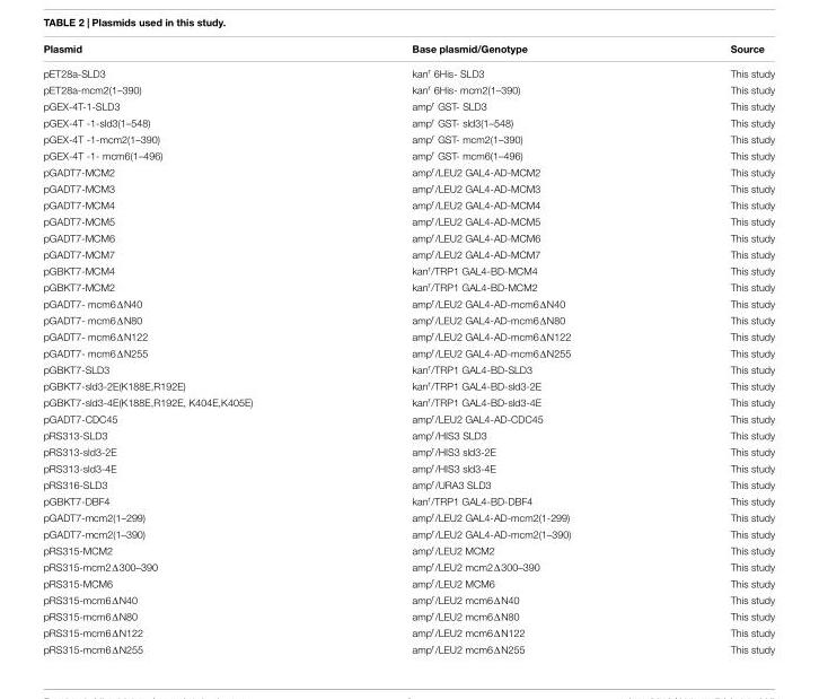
<table><thead><tr><td>Plasmid</td><td>Base plasmid/Genotype</td><td>Source</td></tr></thead><tbody><tr><td>pET28a-SLD3</td><td>kan<sup>r</sup> 6His- SLD3</td><td>This study</td></tr><tr><td>pET28a-mcm2(1–390)</td><td>kan<sup>r</sup> 6His- mcm2(1–390)</td><td>This study</td></tr><tr><td>pGEX-4T-1-SLD3</td><td>amp<sup>r</sup> GST- SLD3</td><td>This study</td></tr><tr><td>pGEX-4T -1-sld3(1–548)</td><td>amp<sup>r</sup> GST- sld3(1–548)</td><td>This study</td></tr><tr><td>pGEX-4T -1-mcm2(1–390)</td><td>amp<sup>r</sup> GST- mcm2(1–390)</td><td>This study</td></tr><tr><td>pGEX-4T -1- mcm6(1–496)</td><td>amp<sup>r</sup> GST- mcm6(1–496)</td><td>This study</td></tr><tr><td>pGADT7-MCM2</td><td>amp<sup>r</sup>/LEU2 GAL4-AD-MCM2</td><td>This study</td></tr><tr><td>pGADT7-MCM3</td><td>amp<sup>r</sup>/LEU2 GAL4-AD-MCM3</td><td>This study</td></tr><tr><td>pGADT7-MCM4</td><td>amp<sup>r</sup>/LEU2 GAL4-AD-MCM4</td><td>This study</td></tr><tr><td>pGADT7-MCM5</td><td>amp<sup>r</sup>/LEU2 GAL4-AD-MCM5</td><td>This study</td></tr><tr><td>pGADT7-MCM6</td><td>amp<sup>r</sup>/LEU2 GAL4-AD-MCM6</td><td>This study</td></tr><tr><td>pGADT7-MCM7</td><td>amp<sup>r</sup>/LEU2 GAL4-AD-MCM7</td><td>This study</td></tr><tr><td>pGBKT7-MCM4</td><td>kan<sup>r</sup>/TRP1 GAL4-BD-MCM4</td><td>This study</td></tr><tr><td>pGBKT7-MCM2</td><td>kan<sup>r</sup>/TRP1 GAL4-BD-MCM2</td><td>This study</td></tr><tr><td>pGADT7- mcm6ΔN40</td><td>amp<sup>r</sup>/LEU2 GAL4-AD-mcm6ΔN40</td><td>This study</td></tr><tr><td>pGADT7- mcm6ΔN80</td><td>amp<sup>r</sup>/LEU2 GAL4-AD-mcm6ΔN80</td><td>This study</td></tr><tr><td>pGADT7- mcm6ΔN122</td><td>amp<sup>r</sup>/LEU2 GAL4-AD-mcm6ΔN122</td><td>This study</td></tr><tr><td>pGADT7- mcm6ΔN255</td><td>amp<sup>r</sup>/LEU2 GAL4-AD-mcm6ΔN255</td><td>This study</td></tr><tr><td>pGBKT7-SLD3</td><td>kan<sup>r</sup>/TRP1 GAL4-BD-SLD3</td><td>This study</td></tr><tr><td>pGBKT7-sld3-2E(K188E,R192E)</td><td>kan<sup>r</sup>/TRP1 GAL4-BD-sld3-2E</td><td>This study</td></tr><tr><td>pGBKT7-sld3-4E(K188E,R192E, K404E,K405E)</td><td>kan<sup>r</sup>/TRP1 GAL4-BD-sld3-4E</td><td>This study</td></tr><tr><td>pGADT7-CDC45</td><td>amp<sup>r</sup>/LEU2 GAL4-AD-CDC45</td><td>This study</td></tr><tr><td>pRS313-SLD3</td><td>amp<sup>r</sup>/HIS3 SLD3</td><td>This study</td></tr><tr><td>pRS313-sld3-2E</td><td>amp<sup>r</sup>/HIS3 sld3-2E</td><td>This study</td></tr><tr><td>pRS313-sld3-4E</td><td>amp<sup>r</sup>/HIS3 sld3-4E</td><td>This study</td></tr><tr><td>pRS316-SLD3</td><td>amp<sup>r</sup>/URA3 SLD3</td><td>This study</td></tr><tr><td>pGBKT7-DBF4</td><td>kan<sup>r</sup>/TRP1 GAL4-BD-DBF4</td><td>This study</td></tr><tr><td>pGADT7-mcm2(1–299)</td><td>amp<sup>r</sup>/LEU2 GAL4-AD-mcm2(1-299)</td><td>This study</td></tr><tr><td>pGADT7-mcm2(1–390)</td><td>amp<sup>r</sup>/LEU2 GAL4-AD-mcm2(1–390)</td><td>This study</td></tr><tr><td>pRS315-MCM2</td><td>amp<sup>r</sup>/LEU2 MCM2</td><td>This study</td></tr><tr><td>pRS315-mcm2Δ300–390</td><td>amp<sup>r</sup>/LEU2 mcm2Δ300–390</td><td>This study</td></tr><tr><td>pRS315-MCM6</td><td>amp<sup>r</sup>/LEU2 MCM6</td><td>This study</td></tr><tr><td>pRS315-mcm6ΔN40</td><td>amp<sup>r</sup>/LEU2 mcm6ΔN40</td><td>This study</td></tr><tr><td>pRS315-mcm6ΔN80</td><td>amp<sup>r</sup>/LEU2 mcm6ΔN80</td><td>This study</td></tr><tr><td>pRS315-mcm6ΔN122</td><td>amp<sup>r</sup>/LEU2 mcm6ΔN122</td><td>This study</td></tr><tr><td>pRS315-mcm6ΔN255</td><td>amp<sup>r</sup>/LEU2 mcm6ΔN255</td><td>This study</td></tr></tbody></table>